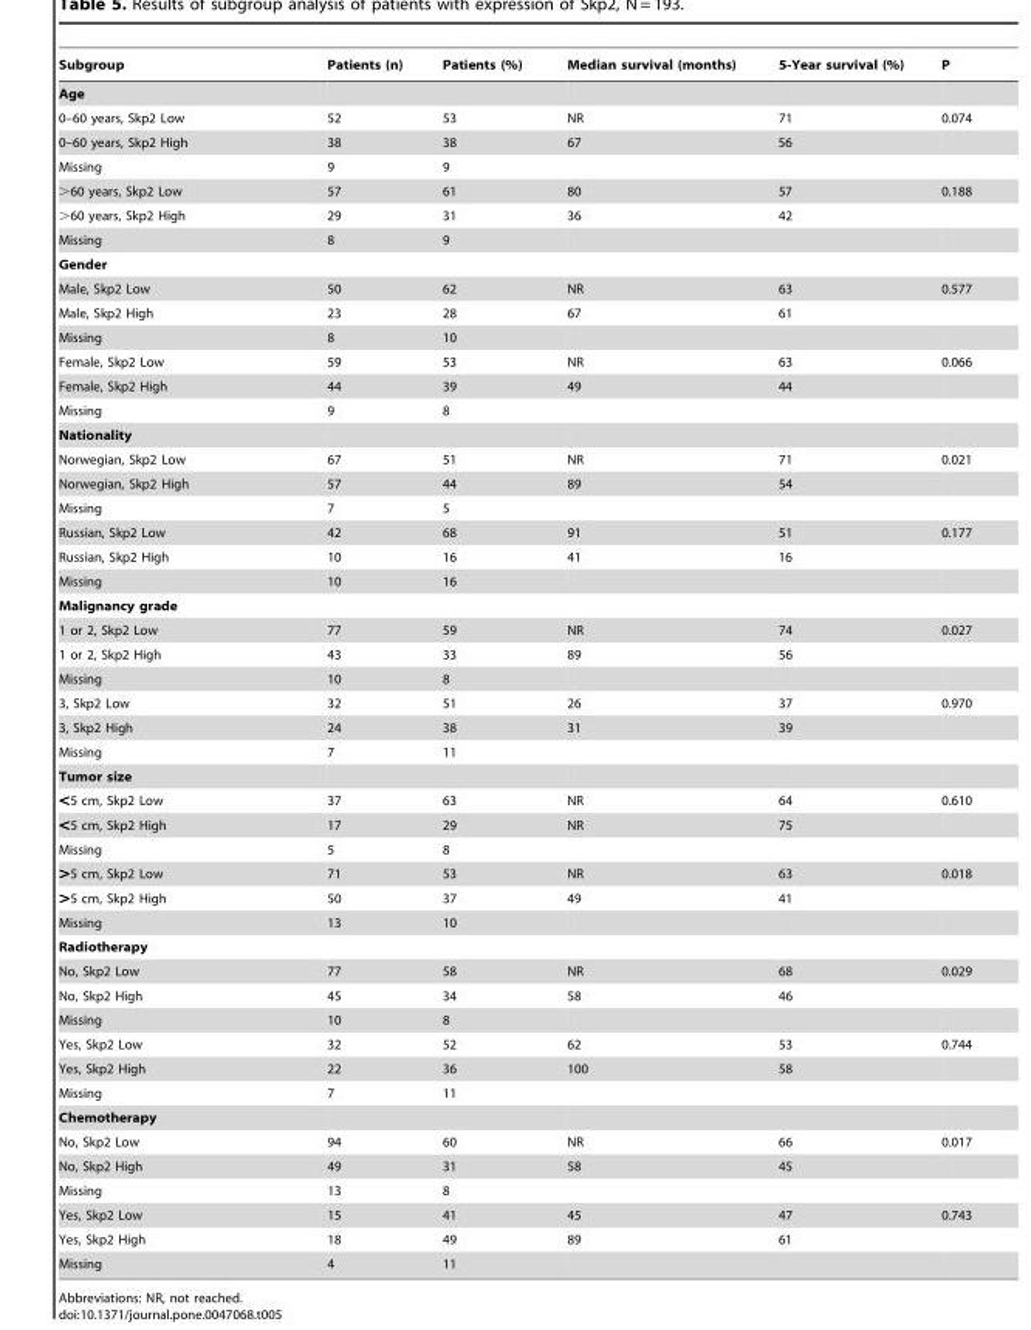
<table><thead><tr><td>Subgroup</td><td>Patients (n)</td><td>Patients (%)</td><td>Median survival (months)</td><td>5-Year survival (%)</td><td>P</td></tr></thead><tbody><tr><td colspan="6">Age</td></tr><tr><td>0–60 years, Skp2 Low</td><td>52</td><td>53</td><td>NR</td><td>71</td><td>0.074</td></tr><tr><td>0–60 years, Skp2 High</td><td>38</td><td>38</td><td>67</td><td>56</td><td></td></tr><tr><td>Missing</td><td>9</td><td>9</td><td></td><td></td><td></td></tr><tr><td>&gt;60 years, Skp2 Low</td><td>57</td><td>61</td><td>80</td><td>57</td><td>0.188</td></tr><tr><td>&gt;60 years, Skp2 High</td><td>29</td><td>31</td><td>36</td><td>42</td><td></td></tr><tr><td>Missing</td><td>8</td><td>9</td><td></td><td></td><td></td></tr><tr><td colspan="6">Gender</td></tr><tr><td>Male, Skp2 Low</td><td>50</td><td>62</td><td>NR</td><td>63</td><td>0.577</td></tr><tr><td>Male, Skp2 High</td><td>23</td><td>28</td><td>67</td><td>61</td><td></td></tr><tr><td>Missing</td><td>8</td><td>10</td><td></td><td></td><td></td></tr><tr><td>Female, Skp2 Low</td><td>59</td><td>53</td><td>NR</td><td>63</td><td>0.066</td></tr><tr><td>Female, Skp2 High</td><td>44</td><td>39</td><td>49</td><td>44</td><td></td></tr><tr><td>Missing</td><td>9</td><td>8</td><td></td><td></td><td></td></tr><tr><td colspan="6">Nationality</td></tr><tr><td>Norwegian, Skp2 Low</td><td>67</td><td>51</td><td>NR</td><td>71</td><td>0.021</td></tr><tr><td>Norwegian, Skp2 High</td><td>57</td><td>44</td><td>89</td><td>54</td><td></td></tr><tr><td>Missing</td><td>7</td><td>5</td><td></td><td></td><td></td></tr><tr><td>Russian, Skp2 Low</td><td>42</td><td>68</td><td>91</td><td>51</td><td>0.177</td></tr><tr><td>Russian, Skp2 High</td><td>10</td><td>16</td><td>41</td><td>16</td><td></td></tr><tr><td>Missing</td><td>10</td><td>16</td><td></td><td></td><td></td></tr><tr><td colspan="6">Malignancy grade</td></tr><tr><td>1 or 2, Skp2 Low</td><td>77</td><td>59</td><td>NR</td><td>74</td><td>0.027</td></tr><tr><td>1 or 2, Skp2 High</td><td>43</td><td>33</td><td>89</td><td>56</td><td></td></tr><tr><td>Missing</td><td>10</td><td>8</td><td></td><td></td><td></td></tr><tr><td>3, Skp2 Low</td><td>32</td><td>51</td><td>26</td><td>37</td><td>0.970</td></tr><tr><td>3, Skp2 High</td><td>24</td><td>38</td><td>31</td><td>39</td><td></td></tr><tr><td>Missing</td><td>7</td><td>11</td><td></td><td></td><td></td></tr><tr><td colspan="6">Tumor size</td></tr><tr><td>&lt;5 cm, Skp2 Low</td><td>37</td><td>63</td><td>NR</td><td>64</td><td>0.610</td></tr><tr><td>&lt;5 cm, Skp2 High</td><td>17</td><td>29</td><td>NR</td><td>75</td><td></td></tr><tr><td>Missing</td><td>5</td><td>8</td><td></td><td></td><td></td></tr><tr><td>&gt;5 cm, Skp2 Low</td><td>71</td><td>53</td><td>NR</td><td>63</td><td>0.018</td></tr><tr><td>&gt;5 cm, Skp2 High</td><td>50</td><td>37</td><td>49</td><td>41</td><td></td></tr><tr><td>Missing</td><td>13</td><td>10</td><td></td><td></td><td></td></tr><tr><td colspan="6">Radiotherapy</td></tr><tr><td>No, Skp2 Low</td><td>77</td><td>58</td><td>NR</td><td>68</td><td>0.029</td></tr><tr><td>No, Skp2 High</td><td>45</td><td>34</td><td>58</td><td>46</td><td></td></tr><tr><td>Missing</td><td>10</td><td>8</td><td></td><td></td><td></td></tr><tr><td>Yes, Skp2 Low</td><td>32</td><td>52</td><td>62</td><td>53</td><td>0.744</td></tr><tr><td>Yes, Skp2 High</td><td>22</td><td>36</td><td>100</td><td>58</td><td></td></tr><tr><td>Missing</td><td>7</td><td>11</td><td></td><td></td><td></td></tr><tr><td colspan="6">Chemotherapy</td></tr><tr><td>No, Skp2 Low</td><td>94</td><td>60</td><td>NR</td><td>66</td><td>0.017</td></tr><tr><td>No, Skp2 High</td><td>49</td><td>31</td><td>58</td><td>45</td><td></td></tr><tr><td>Missing</td><td>13</td><td>8</td><td></td><td></td><td></td></tr><tr><td>Yes, Skp2 Low</td><td>15</td><td>41</td><td>45</td><td>47</td><td>0.743</td></tr><tr><td>Yes, Skp2 High</td><td>18</td><td>49</td><td>89</td><td>61</td><td></td></tr><tr><td>Missing</td><td>4</td><td>11</td><td></td><td></td><td></td></tr></tbody></table>